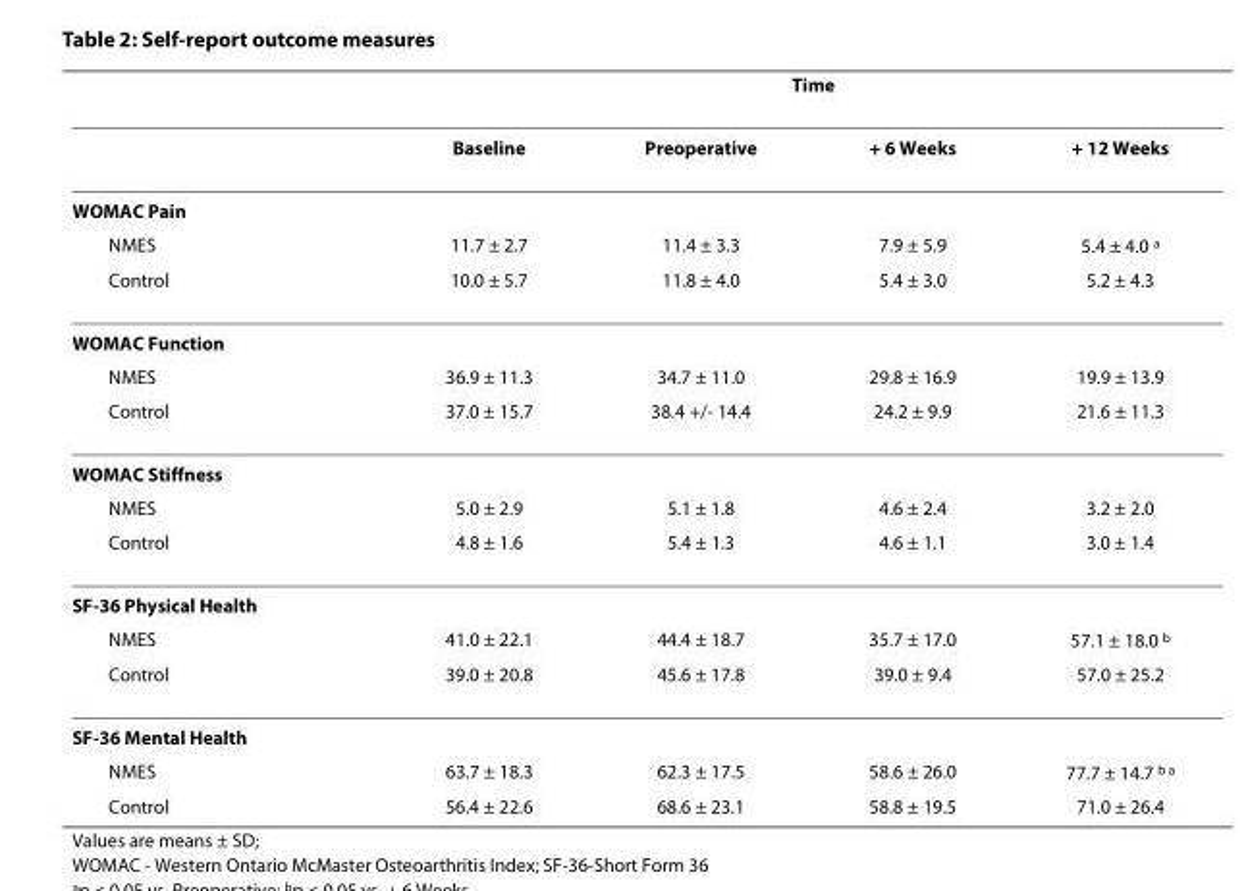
<table><thead><tr><td rowspan="2"></td><td colspan="4">Time</td></tr><tr><td>Baseline</td><td>Preoperative</td><td>+ 6 Weeks</td><td>+ 12 Weeks</td></tr></thead><tbody><tr><td colspan="5">WOMAC Pain</td></tr><tr><td>NMES</td><td>11.7 ± 2.7</td><td>11.4 ± 3.3</td><td>7.9 ± 5.9</td><td>5.4 ± 4.0 <sup>a</sup></td></tr><tr><td>Control</td><td>10.0 ± 5.7</td><td>11.8 ± 4.0</td><td>5.4 ± 3.0</td><td>5.2 ± 4.3</td></tr><tr><td colspan="5">WOMAC Function</td></tr><tr><td>NMES</td><td>36.9 ± 11.3</td><td>34.7 ± 11.0</td><td>29.8 ± 16.9</td><td>19.9 ± 13.9</td></tr><tr><td>Control</td><td>37.0 ± 15.7</td><td>38.4 +/- 14.4</td><td>24.2 ± 9.9</td><td>21.6 ± 11.3</td></tr><tr><td colspan="5">WOMAC Stiffness</td></tr><tr><td>NMES</td><td>5.0 ± 2.9</td><td>5.1 ± 1.8</td><td>4.6 ± 2.4</td><td>3.2 ± 2.0</td></tr><tr><td>Control</td><td>4.8 ± 1.6</td><td>5.4 ± 1.3</td><td>4.6 ± 1.1</td><td>3.0 ± 1.4</td></tr><tr><td colspan="5">SF-36 Physical Health</td></tr><tr><td>NMES</td><td>41.0 ± 22.1</td><td>44.4 ± 18.7</td><td>35.7 ± 17.0</td><td>57.1 ± 18.0 <sup>b</sup></td></tr><tr><td>Control</td><td>39.0 ± 20.8</td><td>45.6 ± 17.8</td><td>39.0 ± 9.4</td><td>57.0 ± 25.2</td></tr><tr><td colspan="5">SF-36 Mental Health</td></tr><tr><td>NMES</td><td>63.7 ± 18.3</td><td>62.3 ± 17.5</td><td>58.6 ± 26.0</td><td>77.7 ± 14.7 <sup>b a</sup></td></tr><tr><td>Control</td><td>56.4 ± 22.6</td><td>68.6 ± 23.1</td><td>58.8 ± 19.5</td><td>71.0 ± 26.4</td></tr></tbody></table>